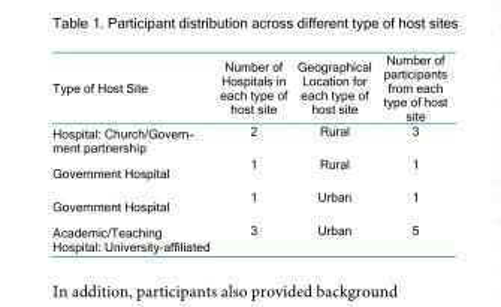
<table><thead><tr><td>Type of Host Site</td><td>Number of Hospitals in each type of host site</td><td>Geographical Location for each type of host site</td><td>Number of participants from each type of host site</td></tr></thead><tbody><tr><td>Hospital: Church/Govern- ment partnership</td><td>2</td><td>Rural</td><td>3</td></tr><tr><td>Government Hospital</td><td>1</td><td>Rural</td><td>1</td></tr><tr><td>Government Hospital</td><td>1</td><td>Urban</td><td>1</td></tr><tr><td>Academic/Teaching Hospital: University-affiliated</td><td>3</td><td>Urban</td><td>5</td></tr></tbody></table>